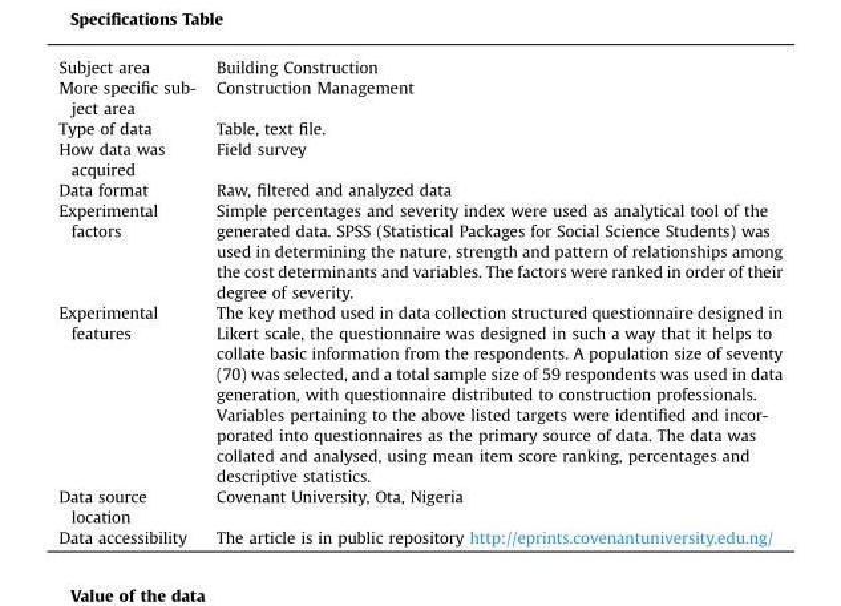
<table><tbody><tr><td>Subject area</td><td>Building Construction</td></tr><tr><td>More specific sub- ject area</td><td>Construction Management</td></tr><tr><td>Type of data</td><td>Table, text file.</td></tr><tr><td>How data was acquired</td><td>Field survey</td></tr><tr><td>Data format</td><td>Raw, filtered and analyzed data</td></tr><tr><td>Experimental factors</td><td>Simple percentages and severity index were used as analytical tool of the generated data. SPSS (Statistical Packages for Social Science Students) was used in determining the nature, strength and pattern of relationships among the cost determinants and variables. The factors were ranked in order of their degree of severity.</td></tr><tr><td>Experimental features</td><td>The key method used in data collection structured questionnaire designed in Likert scale, the questionnaire was designed in such a way that it helps to collate basic information from the respondents. A population size of seventy (70) was selected, and a total sample size of 59 respondents was used in data generation, with questionnaire distributed to construction professionals. Variables pertaining to the above listed targets were identified and incor- porated into questionnaires as the primary source of data. The data was collated and analysed, using mean item score ranking, percentages and descriptive statistics.</td></tr><tr><td>Data source location</td><td>Covenant University, Ota, Nigeria</td></tr><tr><td>Data accessibility</td><td>The article is in public repository http://eprints.covenantuniversity.edu.ng/</td></tr></tbody></table>